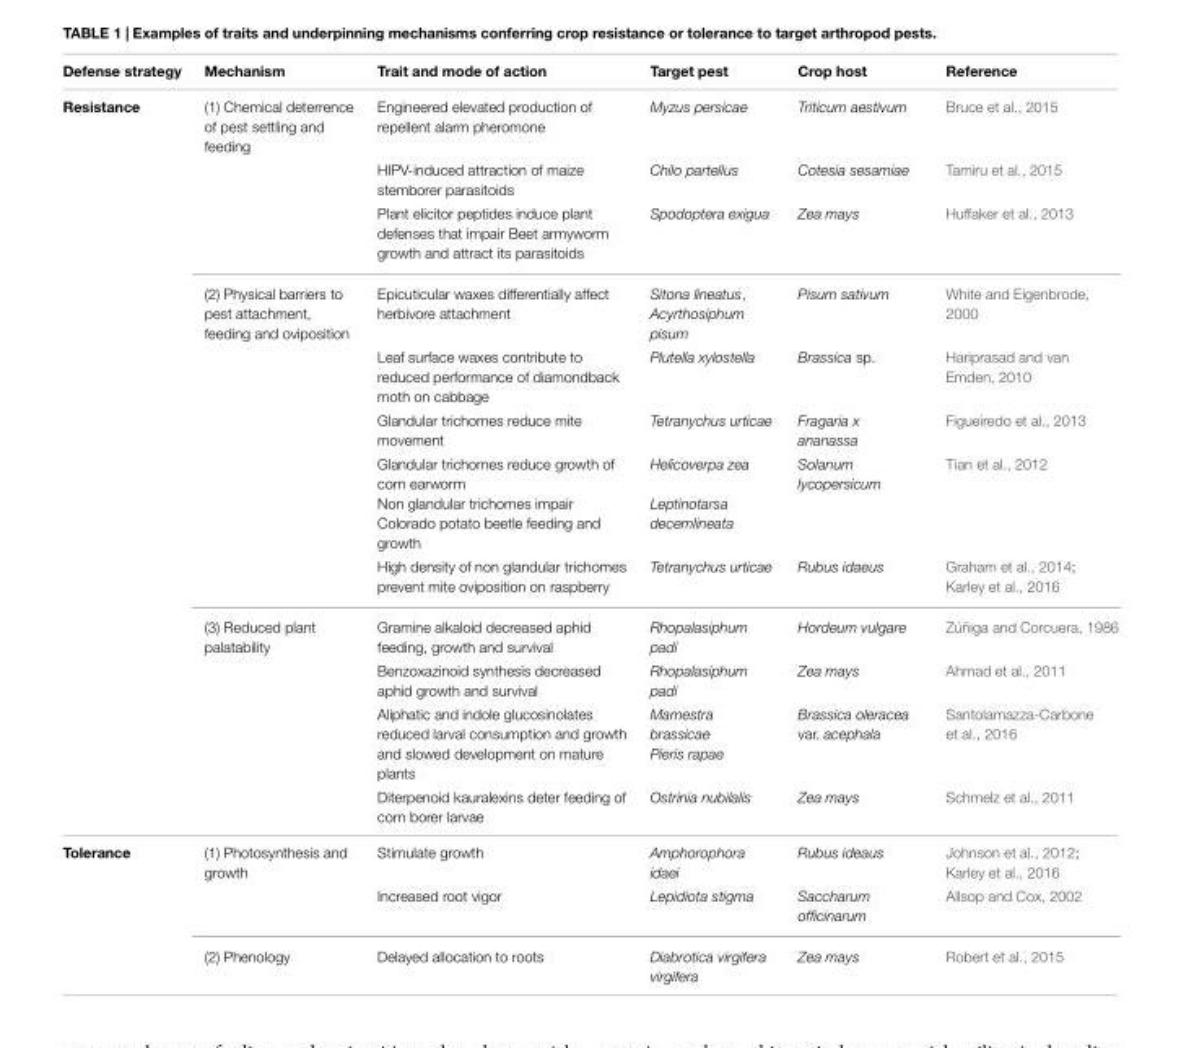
<table><thead><tr><td>Defense strategy</td><td>Mechanism</td><td>Trait and mode of action</td><td>Target pest</td><td>Crop host</td><td>Reference</td></tr></thead><tbody><tr><td rowspan="12">Resistance</td><td>(1) Chemical deterrence of pest settling and feeding</td><td>Engineered elevated production of repellent alarm pheromone</td><td>Myzus persicae</td><td>Triticum aestivum</td><td>Bruce et al., 2015</td></tr><tr><td></td><td>HIPV-induced attraction of maize stemborer parasitoids</td><td>Chilo partellus</td><td>Cotesia sesamiae</td><td>Tamiru et al., 2015</td></tr><tr><td></td><td>Plant elicitor peptides induce plant defenses that impair Beet armyworm growth and attract its parasitoids</td><td>Spodoptera exigua</td><td>Zea mays</td><td>Huffaker et al., 2013</td></tr><tr><td>(2) Physical barriers to pest attachment, feeding and oviposition</td><td>Epicuticular waxes differentially affect herbivore attachment</td><td>Sitona lineatus, Acyrthosiphum pisum</td><td>Pisum sativum</td><td>White and Eigenbrode, 2000</td></tr><tr><td></td><td>Leaf surface waxes contribute to reduced performance of diamondback moth on cabbage</td><td>Plutella xylostella</td><td>Brassica sp.</td><td>Hariprasad and van Emden, 2010</td></tr><tr><td></td><td>Glandular trichomes reduce mite movement</td><td>Tetranychus urticae</td><td>Fragaria x ananassa</td><td>Figueiredo et al., 2013</td></tr><tr><td></td><td>Glandular trichomes reduce growth of corn earworm Non glandular trichomes impair Colorado potato beetle feeding and growth</td><td>Helicoverpa zea Leptinotarsa decemlineata</td><td>Solanum lycopersicum</td><td>Tian et al., 2012</td></tr><tr><td></td><td>High density of non glandular trichomes prevent mite oviposition on raspberry</td><td>Tetranychus urticae</td><td>Rubus idaeus</td><td>Graham et al., 2014; Karley et al., 2016</td></tr><tr><td>(3) Reduced plant palatability</td><td>Gramine alkaloid decreased aphid feeding, growth and survival</td><td>Rhopalasiphum padi</td><td>Hordeum vulgare</td><td>Zúñiga and Corcuera, 1986</td></tr><tr><td></td><td>Benzoxazinoid synthesis decreased aphid growth and survival</td><td>Rhopalasiphum padi</td><td>Zea mays</td><td>Ahmad et al., 2011</td></tr><tr><td></td><td>Aliphatic and indole glucosinolates reduced larval consumption and growth and slowed development on mature plants</td><td>Mamestra brassicae Pieris rapae</td><td>Brassica oleracea var. acephala</td><td>Santolamazza-Carbone et al., 2016</td></tr><tr><td></td><td>Diterpenoid kauralexins deter feeding of corn borer larvae</td><td>Ostrinia nubilalis</td><td>Zea mays</td><td>Schmelz et al., 2011</td></tr><tr><td rowspan="3">Tolerance</td><td>(1) Photosynthesis and growth</td><td>Stimulate growth</td><td>Amphorophora idaei</td><td>Rubus ideaus</td><td>Johnson et al., 2012; Karley et al., 2016</td></tr><tr><td></td><td>Increased root vigor</td><td>Lepidiota stigma</td><td>Saccharum officinarum</td><td>Allsop and Cox, 2002</td></tr><tr><td>(2) Phenology</td><td>Delayed allocation to roots</td><td>Diabrotica virgifera virgifera</td><td>Zea mays</td><td>Robert et al., 2015</td></tr></tbody></table>